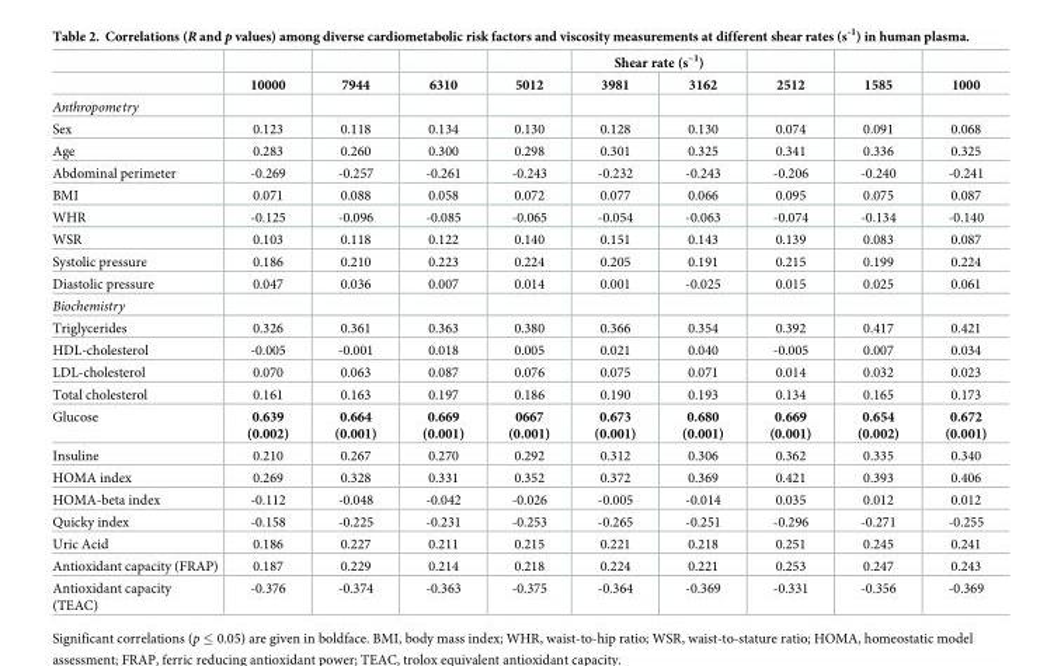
<table><thead><tr><td rowspan="2"></td><td rowspan="2">10000</td><td rowspan="2">7944</td><td rowspan="2">6310</td><td rowspan="2">5012</td><td colspan="2">Shear rate (s<sup>–1</sup>)</td><td rowspan="2">2512</td><td rowspan="2">1585</td><td rowspan="2">1000</td></tr><tr><td>3981</td><td>3162</td></tr></thead><tbody><tr><td colspan="10">Anthropometry</td></tr><tr><td>Sex</td><td>0.123</td><td>0.118</td><td>0.134</td><td>0.130</td><td>0.128</td><td>0.130</td><td>0.074</td><td>0.091</td><td>0.068</td></tr><tr><td>Age</td><td>0.283</td><td>0.260</td><td>0.300</td><td>0.298</td><td>0.301</td><td>0.325</td><td>0.341</td><td>0.336</td><td>0.325</td></tr><tr><td>Abdominal perimeter</td><td>-0.269</td><td>-0.257</td><td>-0.261</td><td>-0.243</td><td>-0.232</td><td>-0.243</td><td>-0.206</td><td>-0.240</td><td>-0.241</td></tr><tr><td>BMI</td><td>0.071</td><td>0.088</td><td>0.058</td><td>0.072</td><td>0.077</td><td>0.066</td><td>0.095</td><td>0.075</td><td>0.087</td></tr><tr><td>WHR</td><td>-0.125</td><td>-0.096</td><td>-0.085</td><td>-0.065</td><td>-0.054</td><td>-0.063</td><td>-0.074</td><td>-0.134</td><td>-0.140</td></tr><tr><td>WSR</td><td>0.103</td><td>0.118</td><td>0.122</td><td>0.140</td><td>0.151</td><td>0.143</td><td>0.139</td><td>0.083</td><td>0.087</td></tr><tr><td>Systolic pressure</td><td>0.186</td><td>0.210</td><td>0.223</td><td>0.224</td><td>0.205</td><td>0.191</td><td>0.215</td><td>0.199</td><td>0.224</td></tr><tr><td>Diastolic pressure</td><td>0.047</td><td>0.036</td><td>0.007</td><td>0.014</td><td>0.001</td><td>-0.025</td><td>0.015</td><td>0.025</td><td>0.061</td></tr><tr><td colspan="10">Biochemistry</td></tr><tr><td>Triglycerides</td><td>0.326</td><td>0.361</td><td>0.363</td><td>0.380</td><td>0.366</td><td>0.354</td><td>0.392</td><td>0.417</td><td>0.421</td></tr><tr><td>HDL-cholesterol</td><td>-0.005</td><td>-0.001</td><td>0.018</td><td>0.005</td><td>0.021</td><td>0.040</td><td>-0.005</td><td>0.007</td><td>0.034</td></tr><tr><td>LDL-cholesterol</td><td>0.070</td><td>0.063</td><td>0.087</td><td>0.076</td><td>0.075</td><td>0.071</td><td>0.014</td><td>0.032</td><td>0.023</td></tr><tr><td>Total cholesterol</td><td>0.161</td><td>0.163</td><td>0.197</td><td>0.186</td><td>0.190</td><td>0.193</td><td>0.134</td><td>0.165</td><td>0.173</td></tr><tr><td>Glucose</td><td>0.639 (0.002)</td><td>0.664 (0.001)</td><td>0.669 (0.001)</td><td>0667 (0.001)</td><td>0.673 (0.001)</td><td>0.680 (0.001)</td><td>0.669 (0.001)</td><td>0.654 (0.002)</td><td>0.672 (0.001)</td></tr><tr><td>Insuline</td><td>0.210</td><td>0.267</td><td>0.270</td><td>0.292</td><td>0.312</td><td>0.306</td><td>0.362</td><td>0.335</td><td>0.340</td></tr><tr><td>HOMA index</td><td>0.269</td><td>0.328</td><td>0.331</td><td>0.352</td><td>0.372</td><td>0.369</td><td>0.421</td><td>0.393</td><td>0.406</td></tr><tr><td>HOMA-beta index</td><td>-0.112</td><td>-0.048</td><td>-0.042</td><td>-0.026</td><td>-0.005</td><td>-0.014</td><td>0.035</td><td>0.012</td><td>0.012</td></tr><tr><td>Quicky index</td><td>-0.158</td><td>-0.225</td><td>-0.231</td><td>-0.253</td><td>-0.265</td><td>-0.251</td><td>-0.296</td><td>-0.271</td><td>-0.255</td></tr><tr><td>Uric Acid</td><td>0.186</td><td>0.227</td><td>0.211</td><td>0.215</td><td>0.221</td><td>0.218</td><td>0.251</td><td>0.245</td><td>0.241</td></tr><tr><td>Antioxidant capacity (FRAP)</td><td>0.187</td><td>0.229</td><td>0.214</td><td>0.218</td><td>0.224</td><td>0.221</td><td>0.253</td><td>0.247</td><td>0.243</td></tr><tr><td>Antioxidant capacity (TEAC)</td><td>-0.376</td><td>-0.374</td><td>-0.363</td><td>-0.375</td><td>-0.364</td><td>-0.369</td><td>-0.331</td><td>-0.356</td><td>-0.369</td></tr></tbody></table>